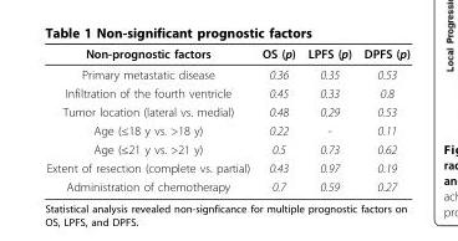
<table><thead><tr><td>Non-prognostic factors</td><td>OS (p)</td><td>LPFS (p)</td><td>DPFS (p)</td></tr></thead><tbody><tr><td>Primary metastatic disease</td><td>0.36</td><td>0.35</td><td>0.53</td></tr><tr><td>Infiltration of the fourth ventricle</td><td>0.45</td><td>0.33</td><td>0.8</td></tr><tr><td>Tumor location (lateral vs. medial)</td><td>0.48</td><td>0.29</td><td>0.53</td></tr><tr><td>Age (≤18 y vs. &gt;18 y)</td><td>0.22</td><td>-</td><td>0.11</td></tr><tr><td>Age (≤21 y vs. &gt;21 y)</td><td>0.5</td><td>0.73</td><td>0.62</td></tr><tr><td>Extent of resection (complete vs. partial)</td><td>0.43</td><td>0.97</td><td>0.19</td></tr><tr><td>Administration of chemotherapy</td><td>0.7</td><td>0.59</td><td>0.27</td></tr></tbody></table>